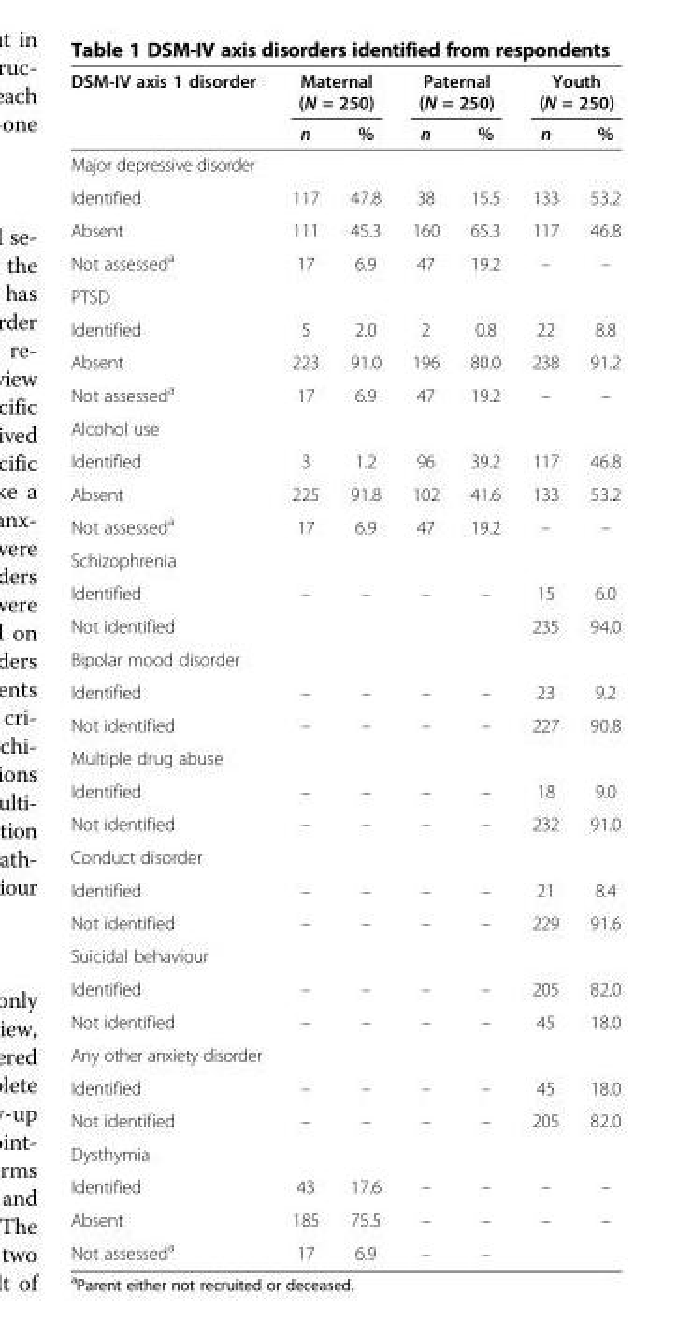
<table><thead><tr><td rowspan="2">DSM-IV axis 1 disorder</td><td colspan="2">Maternal (N = 250)</td><td colspan="2">Paternal (N = 250)</td><td colspan="2">Youth (N = 250)</td></tr><tr><td>n</td><td>%</td><td>n</td><td>%</td><td>n</td><td>%</td></tr></thead><tbody><tr><td colspan="7">Major depressive disorder</td></tr><tr><td>Identified</td><td>117</td><td>47.8</td><td>38</td><td>15.5</td><td>133</td><td>53.2</td></tr><tr><td>Absent</td><td>111</td><td>45.3</td><td>160</td><td>65.3</td><td>117</td><td>46.8</td></tr><tr><td>Not assessed<sup>a</sup></td><td>17</td><td>6.9</td><td>47</td><td>19.2</td><td>–</td><td>–</td></tr><tr><td colspan="7">PTSD</td></tr><tr><td>Identified</td><td>5</td><td>2.0</td><td>2</td><td>0.8</td><td>22</td><td>8.8</td></tr><tr><td>Absent</td><td>223</td><td>91.0</td><td>196</td><td>80.0</td><td>238</td><td>91.2</td></tr><tr><td>Not assessed<sup>a</sup></td><td>17</td><td>6.9</td><td>47</td><td>19.2</td><td>–</td><td>–</td></tr><tr><td colspan="7">Alcohol use</td></tr><tr><td>Identified</td><td>3</td><td>1.2</td><td>96</td><td>39.2</td><td>117</td><td>46.8</td></tr><tr><td>Absent</td><td>225</td><td>91.8</td><td>102</td><td>41.6</td><td>133</td><td>53.2</td></tr><tr><td>Not assessed<sup>a</sup></td><td>17</td><td>6.9</td><td>47</td><td>19.2</td><td>–</td><td>–</td></tr><tr><td colspan="7">Schizophrenia</td></tr><tr><td>Identified</td><td>–</td><td>–</td><td>–</td><td>–</td><td>15</td><td>6.0</td></tr><tr><td>Not identified</td><td></td><td></td><td></td><td></td><td>235</td><td>94.0</td></tr><tr><td colspan="7">Bipolar mood disorder</td></tr><tr><td>Identified</td><td>–</td><td>–</td><td>–</td><td>–</td><td>23</td><td>9.2</td></tr><tr><td>Not identified</td><td>–</td><td>–</td><td>–</td><td>–</td><td>227</td><td>90.8</td></tr><tr><td colspan="7">Multiple drug abuse</td></tr><tr><td>Identified</td><td>–</td><td>–</td><td>–</td><td>–</td><td>18</td><td>9.0</td></tr><tr><td>Not identified</td><td>–</td><td>–</td><td>–</td><td>–</td><td>232</td><td>91.0</td></tr><tr><td colspan="7">Conduct disorder</td></tr><tr><td>Identified</td><td>–</td><td>–</td><td>–</td><td>–</td><td>21</td><td>8.4</td></tr><tr><td>Not identified</td><td>–</td><td>–</td><td>–</td><td>–</td><td>229</td><td>91.6</td></tr><tr><td colspan="7">Suicidal behaviour</td></tr><tr><td>Identified</td><td>–</td><td>–</td><td>–</td><td>–</td><td>205</td><td>82.0</td></tr><tr><td>Not identified</td><td>–</td><td>–</td><td>–</td><td>–</td><td>45</td><td>18.0</td></tr><tr><td colspan="7">Any other anxiety disorder</td></tr><tr><td>Identified</td><td>–</td><td>–</td><td>–</td><td>–</td><td>45</td><td>18.0</td></tr><tr><td>Not identified</td><td>–</td><td>–</td><td>–</td><td>–</td><td>205</td><td>82.0</td></tr><tr><td colspan="7">Dysthymia</td></tr><tr><td>Identified</td><td>43</td><td>17.6</td><td>–</td><td>–</td><td>–</td><td>–</td></tr><tr><td>Absent</td><td>185</td><td>75.5</td><td>–</td><td>–</td><td>–</td><td>–</td></tr><tr><td>Not assessed<sup>a</sup></td><td>17</td><td>6.9</td><td>–</td><td>–</td><td></td><td></td></tr></tbody></table>